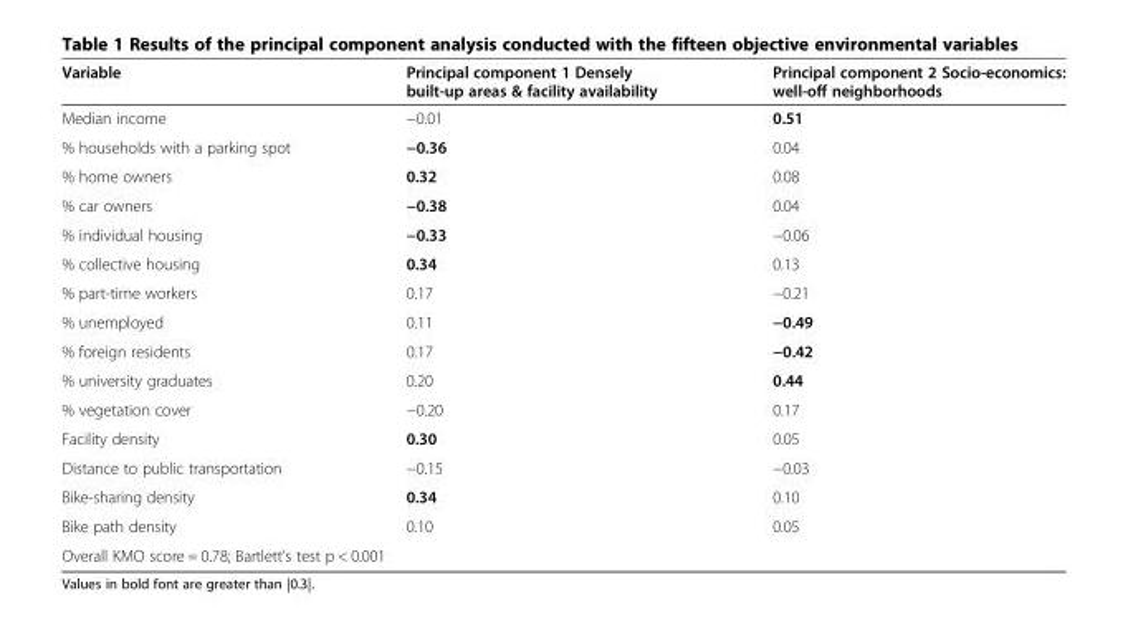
<table><thead><tr><td>Variable</td><td>Principal component 1 Densely built-up areas &amp; facility availability</td><td>Principal component 2 Socio-economics: well-off neighborhoods</td></tr></thead><tbody><tr><td>Median income</td><td>−0.01</td><td>0.51</td></tr><tr><td>% households with a parking spot</td><td>−0.36</td><td>0.04</td></tr><tr><td>% home owners</td><td>0.32</td><td>0.08</td></tr><tr><td>% car owners</td><td>−0.38</td><td>0.04</td></tr><tr><td>% individual housing</td><td>−0.33</td><td>−0.06</td></tr><tr><td>% collective housing</td><td>0.34</td><td>0.13</td></tr><tr><td>% part-time workers</td><td>0.17</td><td>−0.21</td></tr><tr><td>% unemployed</td><td>0.11</td><td>−0.49</td></tr><tr><td>% foreign residents</td><td>0.17</td><td>−0.42</td></tr><tr><td>% university graduates</td><td>0.20</td><td>0.44</td></tr><tr><td>% vegetation cover</td><td>−0.20</td><td>0.17</td></tr><tr><td>Facility density</td><td>0.30</td><td>0.05</td></tr><tr><td>Distance to public transportation</td><td>−0.15</td><td>−0.03</td></tr><tr><td>Bike-sharing density</td><td>0.34</td><td>0.10</td></tr><tr><td>Bike path density</td><td>0.10</td><td>0.05</td></tr><tr><td colspan="3">Overall KMO score = 0.78; Bartlett’s test p &lt; 0.001</td></tr></tbody></table>